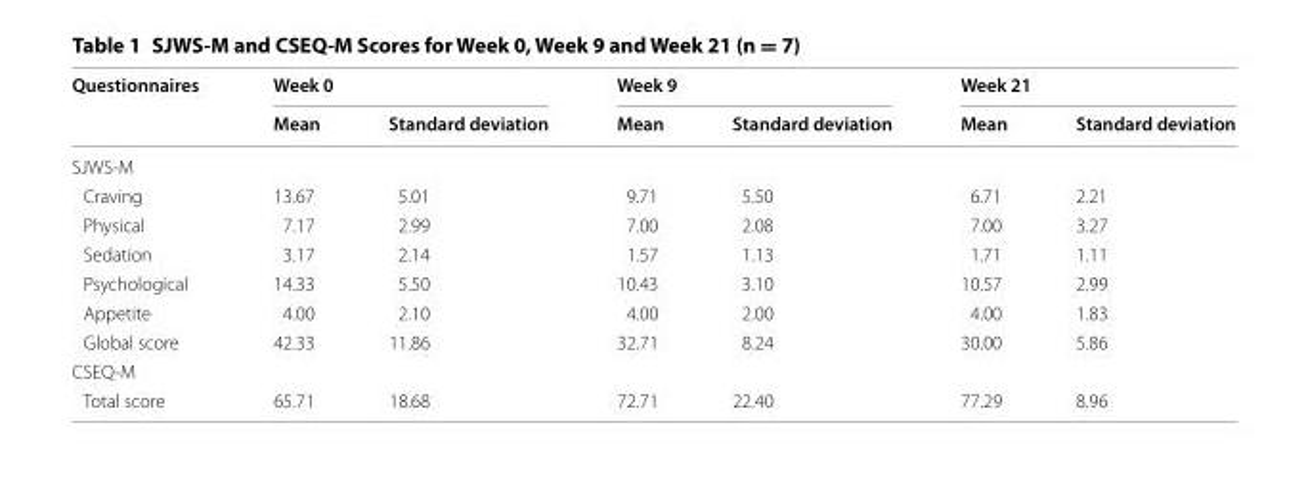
<table><thead><tr><td rowspan="2">Questionnaires</td><td colspan="2">Week 0</td><td colspan="2">Week 9</td><td colspan="2">Week 21</td></tr><tr><td>Mean</td><td>Standard deviation</td><td>Mean</td><td>Standard deviation</td><td>Mean</td><td>Standard deviation</td></tr></thead><tbody><tr><td colspan="7">SJWS‑M</td></tr><tr><td>Craving</td><td>13.67</td><td>5.01</td><td>9.71</td><td>5.50</td><td>6.71</td><td>2.21</td></tr><tr><td>Physical</td><td>7.17</td><td>2.99</td><td>7.00</td><td>2.08</td><td>7.00</td><td>3.27</td></tr><tr><td>Sedation</td><td>3.17</td><td>2.14</td><td>1.57</td><td>1.13</td><td>1.71</td><td>1.11</td></tr><tr><td>Psychological</td><td>14.33</td><td>5.50</td><td>10.43</td><td>3.10</td><td>10.57</td><td>2.99</td></tr><tr><td>Appetite</td><td>4.00</td><td>2.10</td><td>4.00</td><td>2.00</td><td>4.00</td><td>1.83</td></tr><tr><td>Global score</td><td>42.33</td><td>11.86</td><td>32.71</td><td>8.24</td><td>30.00</td><td>5.86</td></tr><tr><td colspan="7">CSEQ‑M</td></tr><tr><td>Total score</td><td>65.71</td><td>18.68</td><td>72.71</td><td>22.40</td><td>77.29</td><td>8.96</td></tr></tbody></table>